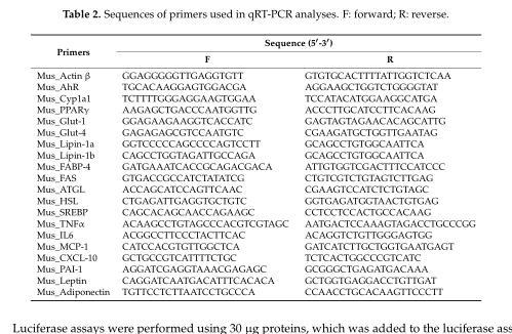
<table><thead><tr><td rowspan="2">Primers</td><td colspan="2">Sequence (5′-3′)</td></tr><tr><td>F</td><td>R</td></tr></thead><tbody><tr><td>Mus_Actin β</td><td>GGAGGGGGTTGAGGTGTT</td><td>GTGTGCACTTTTATTGGTCTCAA</td></tr><tr><td>Mus_AhR</td><td>TGCACAAGGAGTGGACGA</td><td>AGGAAGCTGGTCTGGGGTAT</td></tr><tr><td>Mus_Cyp1a1</td><td>TCTTTTGGGAGGAAGTGGAA</td><td>TCCATACATGGAAGGCATGA</td></tr><tr><td>Mus_PPARγ</td><td>AAGAGCTGACCCAATGGTTG</td><td>ACCCTTGCATCCTTCACAAG</td></tr><tr><td>Mus_Glut-1</td><td>GGAGAAGAAGGTCACCATC</td><td>GAGTAGTAGAACACAGCATTG</td></tr><tr><td>Mus_Glut-4</td><td>GAGAGAGCGTCCAATGTC</td><td>CGAAGATGCTGGTTGAATAG</td></tr><tr><td>Mus_Lipin-1a</td><td>GGTCCCCCAGCCCCAGTCCTT</td><td>GCAGCCTGTGGCAATTCA</td></tr><tr><td>Mus_Lipin-1b</td><td>CAGCCTGGTAGATTGCCAGA</td><td>GCAGCCTGTGGCAATTCA</td></tr><tr><td>Mus_FABP-4</td><td>GATGAAATCACCGCAGACGACA</td><td>ATTGTGGTCGACTTTCCATCCC</td></tr><tr><td>Mus_FAS</td><td>GTGACCGCCATCTATATCG</td><td>CTGTCGTCTGTAGTCTTGAG</td></tr><tr><td>Mus_ATGL</td><td>ACCAGCATCCAGTTCAAC</td><td>CGAAGTCCATCTCTGTAGC</td></tr><tr><td>Mus_HSL</td><td>CTGAGATTGAGGTGCTGTC</td><td>GGTGAGATGGTAACTGTGAG</td></tr><tr><td>Mus_SREBP</td><td>CAGCACAGCAACCAGAAGC</td><td>CCTCCTCCACTGCCACAAG</td></tr><tr><td>Mus_TNFα</td><td>ACAAGCCTGTAGCCCACGTCGTAGC</td><td>AATGACTCCAAAGTAGACCTGCCCGG</td></tr><tr><td>Mus_IL6</td><td>ACGGCCTTCCCTACTTCAC</td><td>ACAGGTCTGTTGGGAGTGG</td></tr><tr><td>Mus_MCP-1</td><td>CATCCACGTGTTGGCTCA</td><td>GATCATCTTGCTGGTGAATGAGT</td></tr><tr><td>Mus_CXCL-10</td><td>GCTGCCGTCATTTTCTGC</td><td>TCTCACTGGCCCGTCATC</td></tr><tr><td>Mus_PAI-1</td><td>AGGATCGAGGTAAACGAGAGC</td><td>GCGGGCTGAGATGACAAA</td></tr><tr><td>Mus_Leptin</td><td>CAGGATCAATGACATTTCACACA</td><td>GCTGGTGAGGACCTGTTGAT</td></tr><tr><td>Mus_Adiponectin</td><td>TGTTCCTCTTAATCCTGCCCA</td><td>CCAACCTGCACAAGTTCCCTT</td></tr></tbody></table>